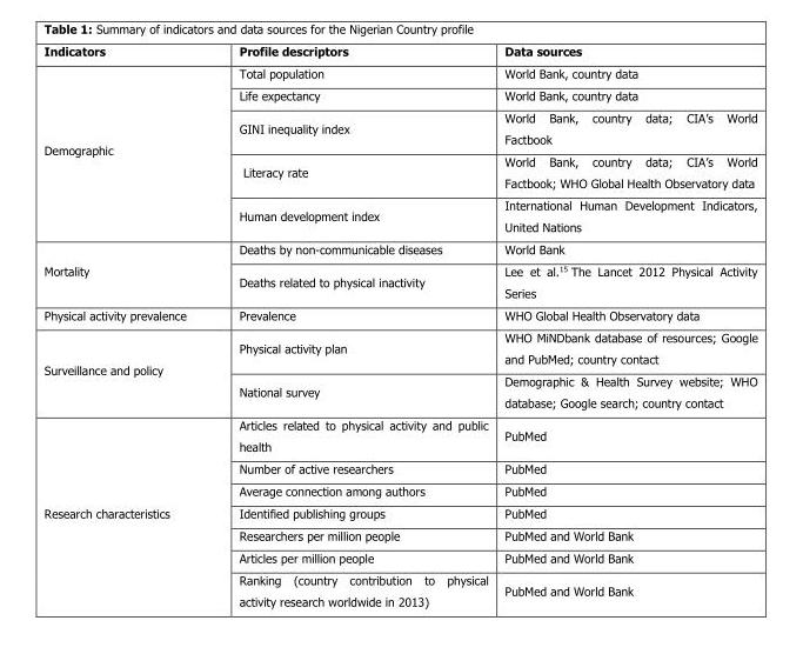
<table><thead><tr><td>Indicators</td><td>Profile descriptors</td><td>Data sources</td></tr></thead><tbody><tr><td rowspan="5">Demographic</td><td>Total population</td><td>World Bank, country data</td></tr><tr><td>Life expectancy</td><td>World Bank, country data</td></tr><tr><td>GINI inequality index</td><td>World Bank, country data; CIA’s World Factbook</td></tr><tr><td>Literacy rate</td><td>World Bank, country data; CIA’s World Factbook; WHO Global Health Observatory data</td></tr><tr><td>Human development index</td><td>International Human Development Indicators, United Nations</td></tr><tr><td rowspan="2">Mortality</td><td>Deaths by non-communicable diseases</td><td>World Bank</td></tr><tr><td>Deaths related to physical inactivity</td><td>Lee et al.<sup>15</sup> The Lancet 2012 Physical Activity Series</td></tr><tr><td>Physical activity prevalence</td><td>Prevalence</td><td>WHO Global Health Observatory data</td></tr><tr><td rowspan="2">Surveillance and policy</td><td>Physical activity plan</td><td>WHO MiNDbank database of resources; Google and PubMed; country contact</td></tr><tr><td>National survey</td><td>Demographic &amp; Health Survey website; WHO database; Google search; country contact</td></tr><tr><td rowspan="7">Research characteristics</td><td>Articles related to physical activity and public health</td><td>PubMed</td></tr><tr><td>Number of active researchers</td><td>PubMed</td></tr><tr><td>Average connection among authors</td><td>PubMed</td></tr><tr><td>Identified publishing groups</td><td>PubMed</td></tr><tr><td>Researchers per million people</td><td>PubMed and World Bank</td></tr><tr><td>Articles per million people</td><td>PubMed and World Bank</td></tr><tr><td>Ranking (country contribution to physical activity research worldwide in 2013)</td><td>PubMed and World Bank</td></tr></tbody></table>